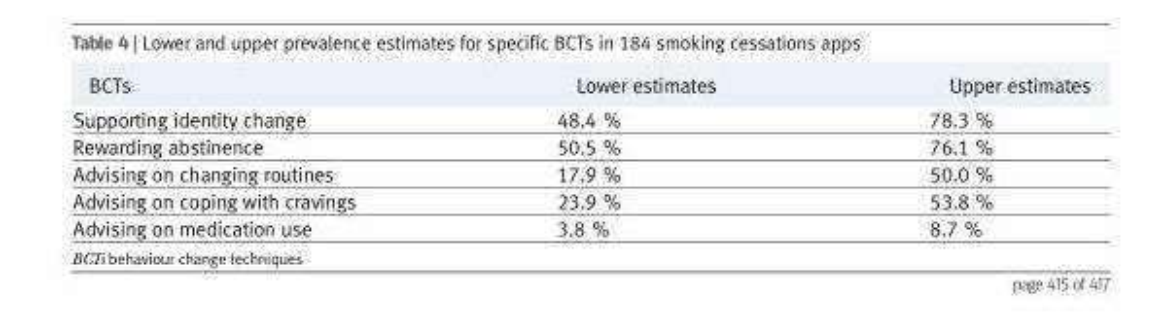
<table><thead><tr><td>BCTs</td><td>Lower estimates</td><td>Upper estimates</td></tr></thead><tbody><tr><td>Supporting identity change</td><td>48.4 %</td><td>78.3 %</td></tr><tr><td>Rewarding abstinence</td><td>50.5 %</td><td>76.1 %</td></tr><tr><td>Advising on changing routines</td><td>17.9 %</td><td>50.0 %</td></tr><tr><td>Advising on coping with cravings</td><td>23.9 %</td><td>53.8 %</td></tr><tr><td>Advising on medication use</td><td>3.8 %</td><td>8.7 %</td></tr></tbody></table>